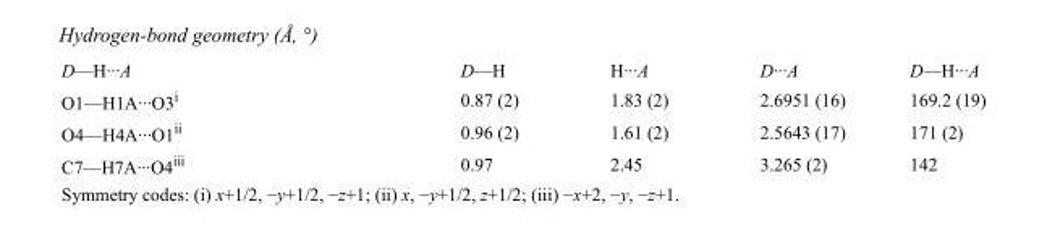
<table><tbody><tr><td>D—H···A</td><td>D—H</td><td>H···A</td><td>D···A</td><td>D—H···A</td></tr><tr><td>O1—H1A···O3<sup>i</sup></td><td>0.87 (2)</td><td>1.83 (2)</td><td>2.6951 (16)</td><td>169.2 (19)</td></tr><tr><td>O4—H4A···O1<sup>ii</sup></td><td>0.96 (2)</td><td>1.61 (2)</td><td>2.5643 (17)</td><td>171 (2)</td></tr><tr><td>C7—H7A···O4<sup>iii</sup></td><td>0.97</td><td>2.45</td><td>3.265 (2)</td><td>142</td></tr></tbody></table>